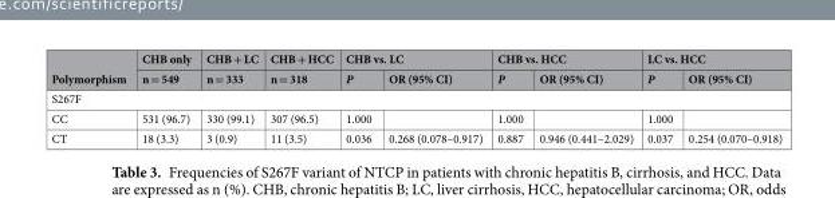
<table><thead><tr><td rowspan="2">Polymorphism</td><td rowspan="2">CHB only n = 549</td><td rowspan="2">CHB + LC n = 333</td><td rowspan="2">CHB + HCC n = 318</td><td colspan="2">CHB vs. LC</td><td colspan="2">CHB vs. HCC</td><td colspan="2">LC vs. HCC</td></tr><tr><td>P</td><td>OR (95% CI)</td><td>P</td><td>OR (95% CI)</td><td>P</td><td>OR (95% CI)</td></tr></thead><tbody><tr><td colspan="10">S267F</td></tr><tr><td>CC</td><td>531 (96.7)</td><td>330 (99.1)</td><td>307 (96.5)</td><td>1.000</td><td></td><td>1.000</td><td></td><td>1.000</td><td></td></tr><tr><td>CT</td><td>18 (3.3)</td><td>3 (0.9)</td><td>11 (3.5)</td><td>0.036</td><td>0.268 (0.078–0.917)</td><td>0.887</td><td>0.946 (0.441–2.029)</td><td>0.037</td><td>0.254 (0.070–0.918)</td></tr></tbody></table>